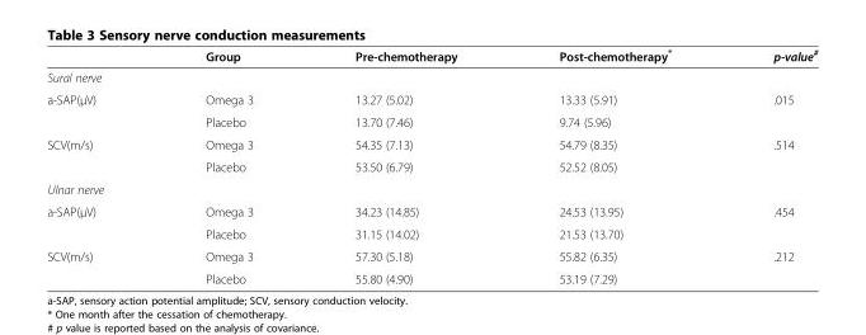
<table><thead><tr><td></td><td>Group</td><td>Pre-chemotherapy</td><td>Post-chemotherapy*</td><td>p-value<sup>#</sup></td></tr></thead><tbody><tr><td colspan="5">Sural nerve</td></tr><tr><td rowspan="2">a-SAP(μV)</td><td>Omega 3</td><td>13.27 (5.02)</td><td>13.33 (5.91)</td><td>.015</td></tr><tr><td>Placebo</td><td>13.70 (7.46)</td><td>9.74 (5.96)</td><td></td></tr><tr><td rowspan="2">SCV(m/s)</td><td>Omega 3</td><td>54.35 (7.13)</td><td>54.79 (8.35)</td><td>.514</td></tr><tr><td>Placebo</td><td>53.50 (6.79)</td><td>52.52 (8.05)</td><td></td></tr><tr><td colspan="5">Ulnar nerve</td></tr><tr><td rowspan="2">a-SAP(μV)</td><td>Omega 3</td><td>34.23 (14.85)</td><td>24.53 (13.95)</td><td>.454</td></tr><tr><td>Placebo</td><td>31.15 (14.02)</td><td>21.53 (13.70)</td><td></td></tr><tr><td rowspan="2">SCV(m/s)</td><td>Omega 3</td><td>57.30 (5.18)</td><td>55.82 (6.35)</td><td>.212</td></tr><tr><td>Placebo</td><td>55.80 (4.90)</td><td>53.19 (7.29)</td><td></td></tr></tbody></table>